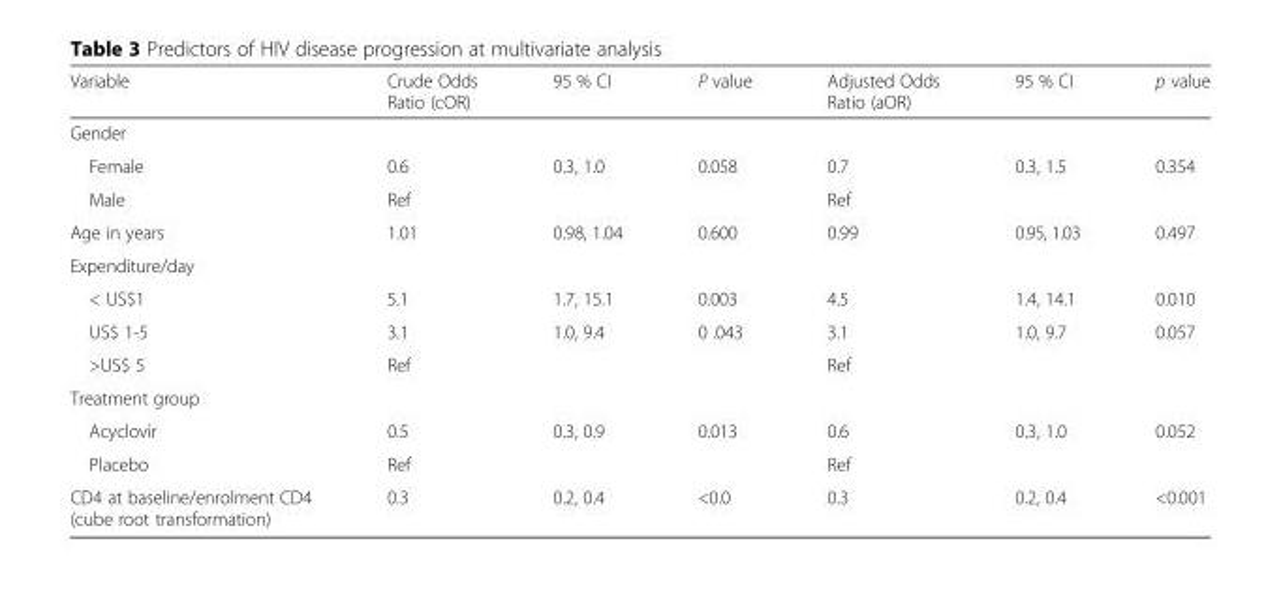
<table><thead><tr><td>Variable</td><td>Crude Odds Ratio (cOR)</td><td>95 % CI</td><td>P value</td><td>Adjusted Odds Ratio (aOR)</td><td>95 % CI</td><td>p value</td></tr></thead><tbody><tr><td colspan="7">Gender</td></tr><tr><td>Female</td><td>0.6</td><td>0.3, 1.0</td><td>0.058</td><td>0.7</td><td>0.3, 1.5</td><td>0.354</td></tr><tr><td>Male</td><td>Ref</td><td></td><td></td><td>Ref</td><td></td><td></td></tr><tr><td>Age in years</td><td>1.01</td><td>0.98, 1.04</td><td>0.600</td><td>0.99</td><td>0.95, 1.03</td><td>0.497</td></tr><tr><td colspan="7">Expenditure/day</td></tr><tr><td>&lt; US$1</td><td>5.1</td><td>1.7, 15.1</td><td>0.003</td><td>4.5</td><td>1.4, 14.1</td><td>0.010</td></tr><tr><td>US$ 1-5</td><td>3.1</td><td>1.0, 9.4</td><td>0 .043</td><td>3.1</td><td>1.0, 9.7</td><td>0.057</td></tr><tr><td>&gt;US$ 5</td><td>Ref</td><td></td><td></td><td>Ref</td><td></td><td></td></tr><tr><td colspan="7">Treatment group</td></tr><tr><td>Acyclovir</td><td>0.5</td><td>0.3, 0.9</td><td>0.013</td><td>0.6</td><td>0.3, 1.0</td><td>0.052</td></tr><tr><td>Placebo</td><td>Ref</td><td></td><td></td><td>Ref</td><td></td><td></td></tr><tr><td>CD4 at baseline/enrolment CD4 (cube root transformation)</td><td>0.3</td><td>0.2, 0.4</td><td>&lt;0.0</td><td>0.3</td><td>0.2, 0.4</td><td>&lt;0.001</td></tr></tbody></table>